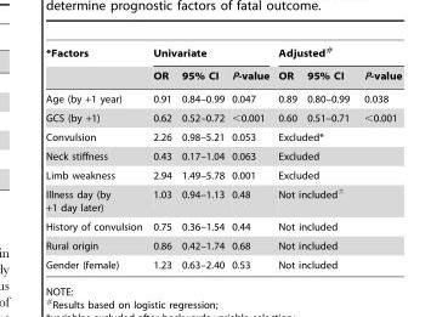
<table><thead><tr><td rowspan="2">*Factors</td><td colspan="3">Univariate</td><td colspan="3">Adjusted#</td></tr><tr><td>OR</td><td>95% CI</td><td>P-value</td><td>OR</td><td>95% CI</td><td>P-value</td></tr></thead><tbody><tr><td>Age (by +1 year)</td><td>0.91</td><td>0.84–0.99</td><td>0.047</td><td>0.89</td><td>0.80–0.99</td><td>0.038</td></tr><tr><td>GCS (by +1)</td><td>0.62</td><td>0.52–0.72</td><td>&lt;0.001</td><td>0.60</td><td>0.51–0.71</td><td>&lt;0.001</td></tr><tr><td>Convulsion</td><td>2.26</td><td>0.98–5.21</td><td>0.053</td><td colspan="3">Excluded*</td></tr><tr><td>Neck stiffness</td><td>0.43</td><td>0.17–1.04</td><td>0.063</td><td colspan="3">Excluded</td></tr><tr><td>Limb weakness</td><td>2.94</td><td>1.49–5.78</td><td>0.001</td><td colspan="3">Excluded</td></tr><tr><td>Illness day (by +1 day later)</td><td>1.03</td><td>0.94–1.13</td><td>0.48</td><td colspan="3">Not included±</td></tr><tr><td>History of convulsion</td><td>0.75</td><td>0.36–1.54</td><td>0.44</td><td colspan="3">Not included</td></tr><tr><td>Rural origin</td><td>0.86</td><td>0.42–1.74</td><td>0.68</td><td colspan="3">Not included</td></tr><tr><td>Gender (female)</td><td>1.23</td><td>0.63–2.40</td><td>0.53</td><td colspan="3">Not included</td></tr></tbody></table>